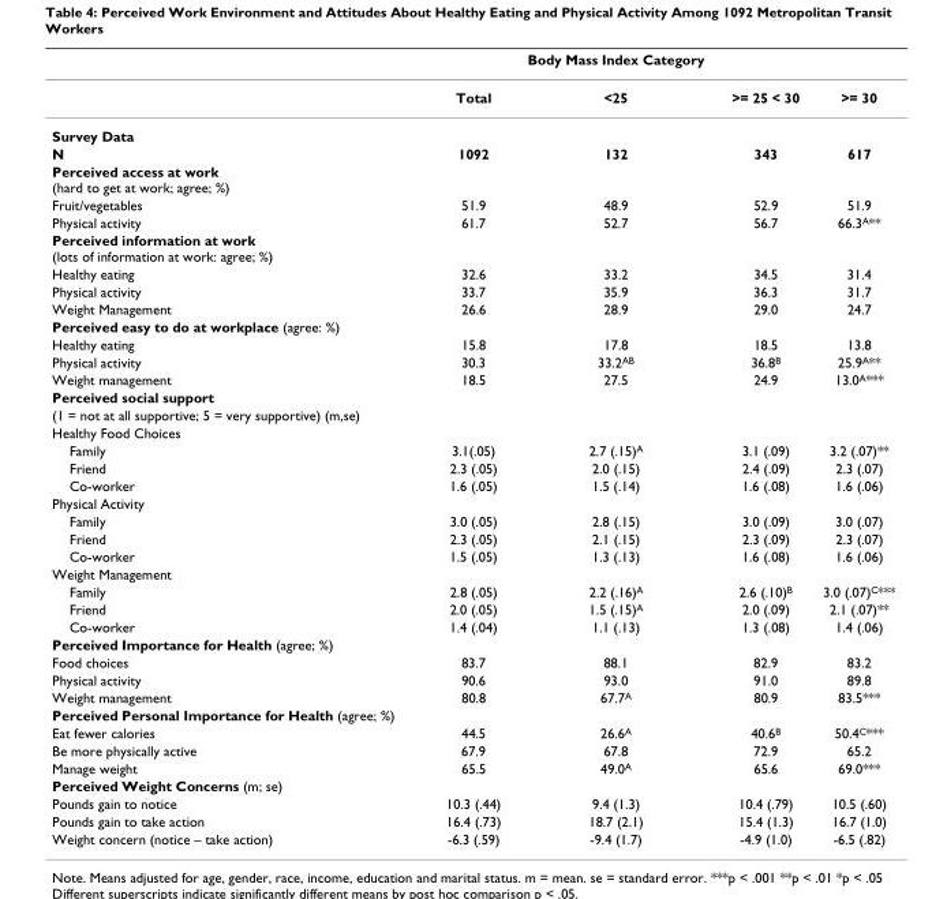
<table><thead><tr><td></td><td></td><td>Body Mass Index Category</td><td></td><td></td></tr></thead><tbody><tr><td></td><td>Total</td><td>&lt;25</td><td>&gt;= 25 &lt; 30</td><td>&gt;= 30</td></tr><tr><td colspan="5">Survey Data</td></tr><tr><td>N</td><td>1092</td><td>132</td><td>343</td><td>617</td></tr><tr><td colspan="5">Perceived access at work (hard to get at work; agree; %)</td></tr><tr><td>Fruit/vegetables</td><td>51.9</td><td>48.9</td><td>52.9</td><td>51.9</td></tr><tr><td>Physical activity</td><td>61.7</td><td>52.7</td><td>56.7</td><td>66.3<sup>A</sup>**</td></tr><tr><td colspan="5">Perceived information at work (lots of information at work: agree; %)</td></tr><tr><td>Healthy eating</td><td>32.6</td><td>33.2</td><td>34.5</td><td>31.4</td></tr><tr><td>Physical activity</td><td>33.7</td><td>35.9</td><td>36.3</td><td>31.7</td></tr><tr><td>Weight Management</td><td>26.6</td><td>28.9</td><td>29.0</td><td>24.7</td></tr><tr><td colspan="5">Perceived easy to do at workplace (agree: %)</td></tr><tr><td>Healthy eating</td><td>15.8</td><td>17.8</td><td>18.5</td><td>13.8</td></tr><tr><td>Physical activity</td><td>30.3</td><td>33.2<sup>AB</sup></td><td>36.8<sup>B</sup></td><td>25.9<sup>A</sup>**</td></tr><tr><td>Weight management</td><td>18.5</td><td>27.5</td><td>24.9</td><td>13.0<sup>A</sup>***</td></tr><tr><td colspan="5">Perceived social support</td></tr><tr><td colspan="5">(1 = not at all supportive; 5 = very supportive) (m,se)</td></tr><tr><td colspan="5">Healthy Food Choices</td></tr><tr><td>Family</td><td>3.1(.05)</td><td>2.7 (.15)<sup>A</sup></td><td>3.1 (.09)</td><td>3.2 (.07)**</td></tr><tr><td>Friend</td><td>2.3 (.05)</td><td>2.0 (.15)</td><td>2.4 (.09)</td><td>2.3 (.07)</td></tr><tr><td>Co-worker</td><td>1.6 (.05)</td><td>1.5 (.14)</td><td>1.6 (.08)</td><td>1.6 (.06)</td></tr><tr><td colspan="5">Physical Activity</td></tr><tr><td>Family</td><td>3.0 (.05)</td><td>2.8 (.15)</td><td>3.0 (.09)</td><td>3.0 (.07)</td></tr><tr><td>Friend</td><td>2.3 (.05)</td><td>2.1 (.15)</td><td>2.3 (.09)</td><td>2.3 (.07)</td></tr><tr><td>Co-worker</td><td>1.5 (.05)</td><td>1.3 (.13)</td><td>1.6 (.08)</td><td>1.6 (.06)</td></tr><tr><td colspan="5">Weight Management</td></tr><tr><td>Family</td><td>2.8 (.05)</td><td>2.2 (.16)<sup>A</sup></td><td>2.6 (.10)<sup>B</sup></td><td>3.0 (.07)<sup>C</sup>***</td></tr><tr><td>Friend</td><td>2.0 (.05)</td><td>1.5 (.15)<sup>A</sup></td><td>2.0 (.09)</td><td>2.1 (.07)**</td></tr><tr><td>Co-worker</td><td>1.4 (.04)</td><td>1.1 (.13)</td><td>1.3 (.08)</td><td>1.4 (.06)</td></tr><tr><td colspan="5">Perceived Importance for Health (agree; %)</td></tr><tr><td>Food choices</td><td>83.7</td><td>88.1</td><td>82.9</td><td>83.2</td></tr><tr><td>Physical activity</td><td>90.6</td><td>93.0</td><td>91.0</td><td>89.8</td></tr><tr><td>Weight management</td><td>80.8</td><td>67.7<sup>A</sup></td><td>80.9</td><td>83.5***</td></tr><tr><td colspan="5">Perceived Personal Importance for Health (agree; %)</td></tr><tr><td>Eat fewer calories</td><td>44.5</td><td>26.6<sup>A</sup></td><td>40.6<sup>B</sup></td><td>50.4<sup>C</sup>***</td></tr><tr><td>Be more physically active</td><td>67.9</td><td>67.8</td><td>72.9</td><td>65.2</td></tr><tr><td>Manage weight</td><td>65.5</td><td>49.0<sup>A</sup></td><td>65.6</td><td>69.0***</td></tr><tr><td colspan="5">Perceived Weight Concerns (m; se)</td></tr><tr><td>Pounds gain to notice</td><td>10.3 (.44)</td><td>9.4 (1.3)</td><td>10.4 (.79)</td><td>10.5 (.60)</td></tr><tr><td>Pounds gain to take action</td><td>16.4 (.73)</td><td>18.7 (2.1)</td><td>15.4 (1.3)</td><td>16.7 (1.0)</td></tr><tr><td>Weight concern (notice – take action)</td><td>-6.3 (.59)</td><td>-9.4 (1.7)</td><td>-4.9 (1.0)</td><td>-6.5 (.82)</td></tr></tbody></table>